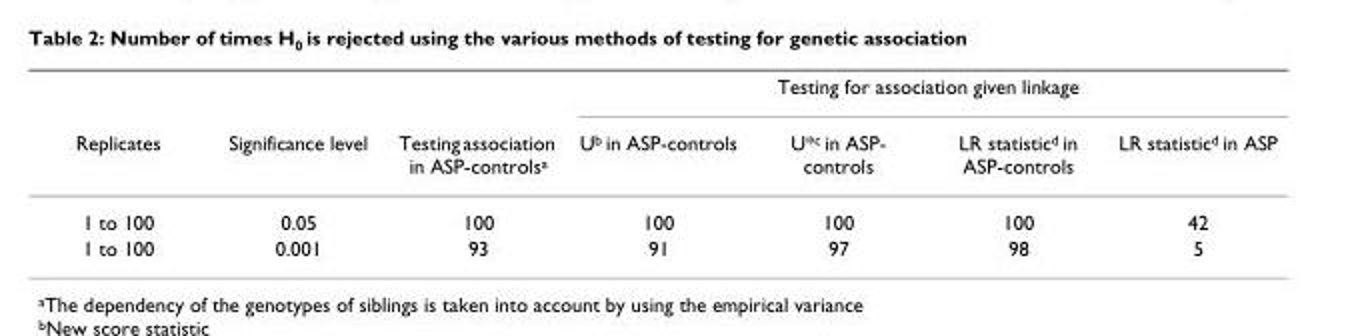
<table><thead><tr><td rowspan="2">Replicates</td><td rowspan="2">Significance level</td><td rowspan="2">Testing association in ASP-controls<sup>a</sup></td><td colspan="4">Testing for association given linkage</td></tr><tr><td>U<sup>b</sup> in ASP-controls</td><td>U*<sup>c</sup> in ASP- controls</td><td>LR statistic<sup>d</sup> in ASP-controls</td><td>LR statistic<sup>d</sup> in ASP</td></tr></thead><tbody><tr><td>1 to 100</td><td>0.05</td><td>100</td><td>100</td><td>100</td><td>100</td><td>42</td></tr><tr><td>1 to 100</td><td>0.001</td><td>93</td><td>91</td><td>97</td><td>98</td><td>5</td></tr></tbody></table>